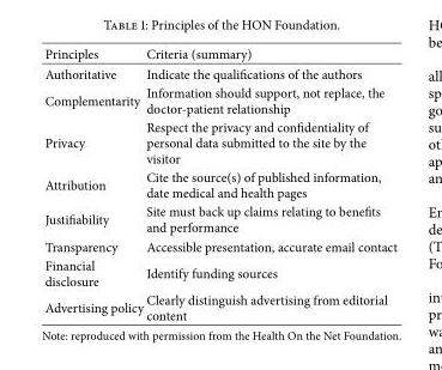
<table><thead><tr><td>Principles</td><td>Criteria (summary)</td></tr></thead><tbody><tr><td>Authoritative</td><td>Indicate the qualifications of the authors</td></tr><tr><td>Complementarity</td><td>Information should support, not replace, the doctor-patient relationship</td></tr><tr><td>Privacy</td><td>Respect the privacy and confidentiality of personal data submitted to the site by the visitor</td></tr><tr><td>Attribution</td><td>Cite the source(s) of published information, date medical and health pages</td></tr><tr><td>Justifiability</td><td>Site must back up claims relating to benefits and performance</td></tr><tr><td>Transparency</td><td>Accessible presentation, accurate email contact</td></tr><tr><td>Financial disclosure</td><td>Identify funding sources</td></tr><tr><td>Advertising policy</td><td>Clearly distinguish advertising from editorial content</td></tr></tbody></table>